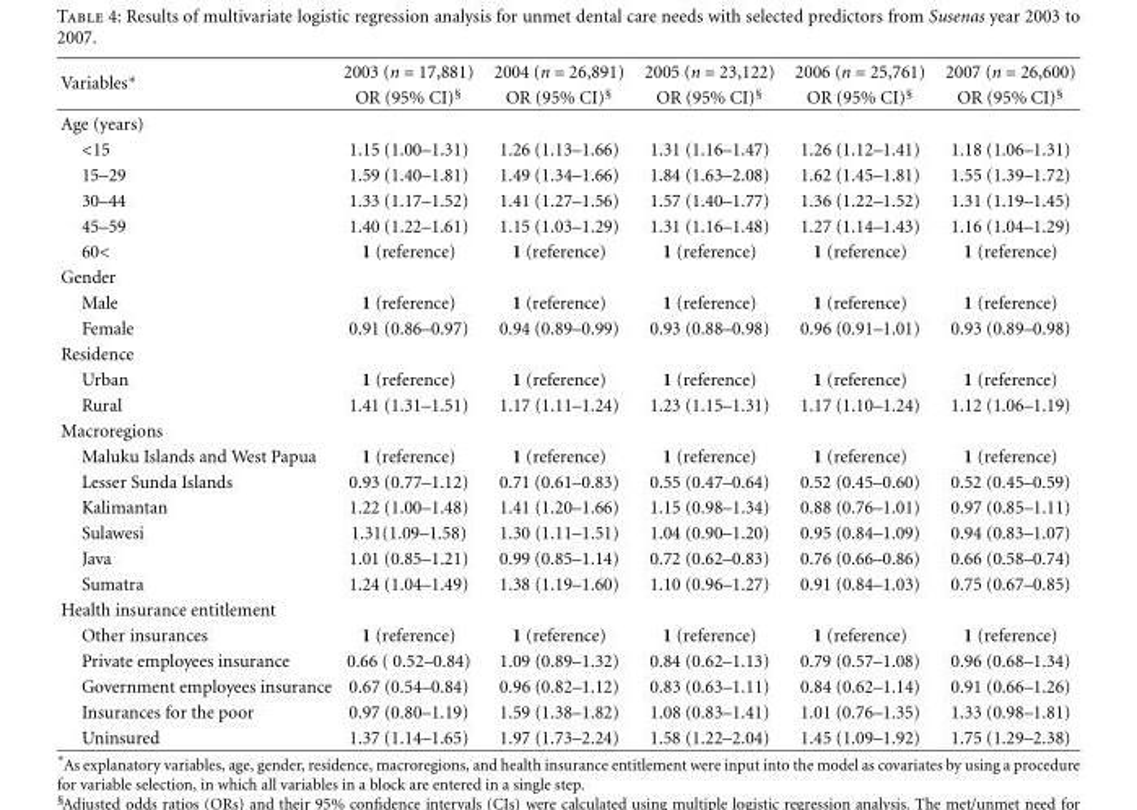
<table><thead><tr><td rowspan="2">Variables∗</td><td rowspan="2">2003 (n = 17,881) OR (95% CI)<sup>§</sup></td><td rowspan="2">2004 (n = 26,891) OR (95% CI)<sup>§</sup></td><td rowspan="2">2005 (n = 23,122) OR (95% CI)<sup>§</sup></td><td rowspan="2">2006 (n = 25,761) OR (95% CI)<sup>§</sup></td><td rowspan="2">2007 (n = 26,600) OR (95% CI)<sup>§</sup></td></tr><tr></tr></thead><tbody><tr><td colspan="6">Age (years)</td></tr><tr><td>&lt;15</td><td>1.15 (1.00–1.31)</td><td>1.26 (1.13–1.66)</td><td>1.31 (1.16–1.47)</td><td>1.26 (1.12–1.41)</td><td>1.18 (1.06–1.31)</td></tr><tr><td>15–29</td><td>1.59 (1.40–1.81)</td><td>1.49 (1.34–1.66)</td><td>1.84 (1.63–2.08)</td><td>1.62 (1.45–1.81)</td><td>1.55 (1.39–1.72)</td></tr><tr><td>30–44</td><td>1.33 (1.17–1.52)</td><td>1.41 (1.27–1.56)</td><td>1.57 (1.40–1.77)</td><td>1.36 (1.22–1.52)</td><td>1.31 (1.19–1.45)</td></tr><tr><td>45–59</td><td>1.40 (1.22–1.61)</td><td>1.15 (1.03–1.29)</td><td>1.31 (1.16–1.48)</td><td>1.27 (1.14–1.43)</td><td>1.16 (1.04–1.29)</td></tr><tr><td>60&lt;</td><td>1 (reference)</td><td>1 (reference)</td><td>1 (reference)</td><td>1 (reference)</td><td>1 (reference)</td></tr><tr><td colspan="6">Gender</td></tr><tr><td>Male</td><td>1 (reference)</td><td>1 (reference)</td><td>1 (reference)</td><td>1 (reference)</td><td>1 (reference)</td></tr><tr><td>Female</td><td>0.91 (0.86–0.97)</td><td>0.94 (0.89–0.99)</td><td>0.93 (0.88–0.98)</td><td>0.96 (0.91–1.01)</td><td>0.93 (0.89–0.98)</td></tr><tr><td colspan="6">Residence</td></tr><tr><td>Urban</td><td>1 (reference)</td><td>1 (reference)</td><td>1 (reference)</td><td>1 (reference)</td><td>1 (reference)</td></tr><tr><td>Rural</td><td>1.41 (1.31–1.51)</td><td>1.17 (1.11–1.24)</td><td>1.23 (1.15–1.31)</td><td>1.17 (1.10–1.24)</td><td>1.12 (1.06–1.19)</td></tr><tr><td colspan="6">Macroregions</td></tr><tr><td>Maluku Islands and West Papua</td><td>1 (reference)</td><td>1 (reference)</td><td>1 (reference)</td><td>1 (reference)</td><td>1 (reference)</td></tr><tr><td>Lesser Sunda Islands</td><td>0.93 (0.77–1.12)</td><td>0.71 (0.61–0.83)</td><td>0.55 (0.47–0.64)</td><td>0.52 (0.45–0.60)</td><td>0.52 (0.45–0.59)</td></tr><tr><td>Kalimantan</td><td>1.22 (1.00–1.48)</td><td>1.41 (1.20–1.66)</td><td>1.15 (0.98–1.34)</td><td>0.88 (0.76–1.01)</td><td>0.97 (0.85–1.11)</td></tr><tr><td>Sulawesi</td><td>1.31(1.09–1.58)</td><td>1.30 (1.11–1.51)</td><td>1.04 (0.90–1.20)</td><td>0.95 (0.84–1.09)</td><td>0.94 (0.83–1.07)</td></tr><tr><td>Java</td><td>1.01 (0.85–1.21)</td><td>0.99 (0.85–1.14)</td><td>0.72 (0.62–0.83)</td><td>0.76 (0.66–0.86)</td><td>0.66 (0.58–0.74)</td></tr><tr><td>Sumatra</td><td>1.24 (1.04–1.49)</td><td>1.38 (1.19–1.60)</td><td>1.10 (0.96–1.27)</td><td>0.91 (0.84–1.03)</td><td>0.75 (0.67–0.85)</td></tr><tr><td colspan="6">Health insurance entitlement</td></tr><tr><td>Other insurances</td><td>1 (reference)</td><td>1 (reference)</td><td>1 (reference)</td><td>1 (reference)</td><td>1 (reference)</td></tr><tr><td>Private employees insurance</td><td>0.66 ( 0.52–0.84)</td><td>1.09 (0.89–1.32)</td><td>0.84 (0.62–1.13)</td><td>0.79 (0.57–1.08)</td><td>0.96 (0.68–1.34)</td></tr><tr><td>Government employees insurance</td><td>0.67 (0.54–0.84)</td><td>0.96 (0.82–1.12)</td><td>0.83 (0.63–1.11)</td><td>0.84 (0.62–1.14)</td><td>0.91 (0.66–1.26)</td></tr><tr><td>Insurances for the poor</td><td>0.97 (0.80–1.19)</td><td>1.59 (1.38–1.82)</td><td>1.08 (0.83–1.41)</td><td>1.01 (0.76–1.35)</td><td>1.33 (0.98–1.81)</td></tr><tr><td>Uninsured</td><td>1.37 (1.14–1.65)</td><td>1.97 (1.73–2.24)</td><td>1.58 (1.22–2.04)</td><td>1.45 (1.09–1.92)</td><td>1.75 (1.29–2.38)</td></tr></tbody></table>